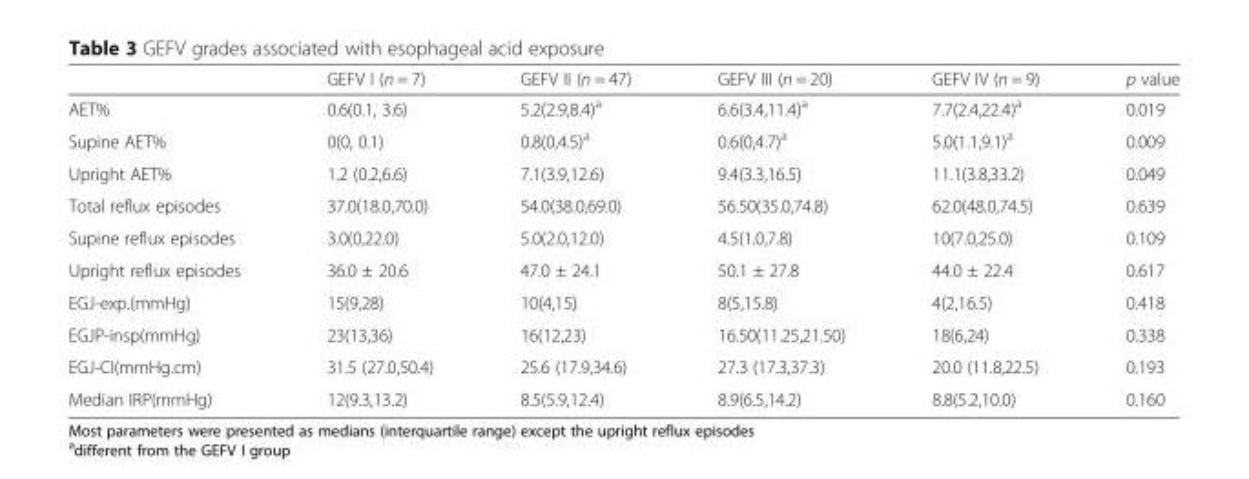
<table><thead><tr><td></td><td>GEFV I (n = 7)</td><td>GEFV II (n = 47)</td><td>GEFV III (n = 20)</td><td>GEFV IV (n = 9)</td><td>p value</td></tr></thead><tbody><tr><td>AET%</td><td>0.6(0.1, 3.6)</td><td>5.2(2.9,8.4)<sup>a</sup></td><td>6.6(3.4,11.4)<sup>a</sup></td><td>7.7(2.4,22.4)<sup>a</sup></td><td>0.019</td></tr><tr><td>Supine AET%</td><td>0(0, 0.1)</td><td>0.8(0,4.5)<sup>a</sup></td><td>0.6(0,4.7)<sup>a</sup></td><td>5.0(1.1,9.1)<sup>a</sup></td><td>0.009</td></tr><tr><td>Upright AET%</td><td>1.2 (0.2,6.6)</td><td>7.1(3.9,12.6)</td><td>9.4(3.3,16.5)</td><td>11.1(3.8,33.2)</td><td>0.049</td></tr><tr><td>Total reflux episodes</td><td>37.0(18.0,70.0)</td><td>54.0(38.0,69.0)</td><td>56.50(35.0,74.8)</td><td>62.0(48.0,74.5)</td><td>0.639</td></tr><tr><td>Supine reflux episodes</td><td>3.0(0,22.0)</td><td>5.0(2.0,12.0)</td><td>4.5(1.0,7.8)</td><td>10(7.0,25.0)</td><td>0.109</td></tr><tr><td>Upright reflux episodes</td><td>36.0 ± 20.6</td><td>47.0 ± 24.1</td><td>50.1 ± 27.8</td><td>44.0 ± 22.4</td><td>0.617</td></tr><tr><td>EGJ-exp.(mmHg)</td><td>15(9,28)</td><td>10(4,15)</td><td>8(5,15.8)</td><td>4(2,16.5)</td><td>0.418</td></tr><tr><td>EGJP-insp(mmHg)</td><td>23(13,36)</td><td>16(12,23)</td><td>16.50(11.25,21.50)</td><td>18(6,24)</td><td>0.338</td></tr><tr><td>EGJ-CI(mmHg.cm)</td><td>31.5 (27.0,50.4)</td><td>25.6 (17.9,34.6)</td><td>27.3 (17.3,37.3)</td><td>20.0 (11.8,22.5)</td><td>0.193</td></tr><tr><td>Median IRP(mmHg)</td><td>12(9.3,13.2)</td><td>8.5(5.9,12.4)</td><td>8.9(6.5,14.2)</td><td>8.8(5.2,10.0)</td><td>0.160</td></tr></tbody></table>